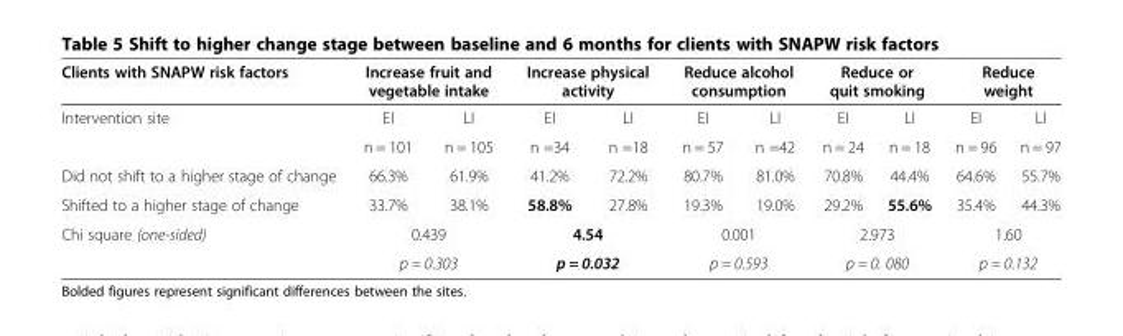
<table><thead><tr><td rowspan="2">Clients with SNAPW risk factors Intervention site</td><td colspan="2">Increase fruit and vegetable intake</td><td colspan="2">Increase physical activity</td><td colspan="2">Reduce alcohol consumption</td><td colspan="2">Reduce or quit smoking</td><td colspan="2">Reduce weight</td></tr><tr><td>EI</td><td>LI</td><td>EI</td><td>LI</td><td>EI</td><td>LI</td><td>EI</td><td>LI</td><td>EI</td><td>LI</td></tr></thead><tbody><tr><td></td><td>n = 101</td><td>n = 105</td><td>n =34</td><td>n =18</td><td>n = 57</td><td>n =42</td><td>n = 24</td><td>n = 18</td><td>n = 96</td><td>n = 97</td></tr><tr><td>Did not shift to a higher stage of change</td><td>66.3%</td><td>61.9%</td><td>41.2%</td><td>72.2%</td><td>80.7%</td><td>81.0%</td><td>70.8%</td><td>44.4%</td><td>64.6%</td><td>55.7%</td></tr><tr><td>Shifted to a higher stage of change</td><td>33.7%</td><td>38.1%</td><td>58.8%</td><td>27.8%</td><td>19.3%</td><td>19.0%</td><td>29.2%</td><td>55.6%</td><td>35.4%</td><td>44.3%</td></tr><tr><td rowspan="2">Chi square (one-sided)</td><td colspan="2">0.439</td><td colspan="2">4.54</td><td colspan="2">0.001</td><td colspan="2">2.973</td><td colspan="2">1.60</td></tr><tr><td colspan="2">p = 0.303</td><td colspan="2">p = 0.032</td><td colspan="2">p = 0.593</td><td colspan="2">p = 0. 080</td><td colspan="2">p = 0.132</td></tr></tbody></table>